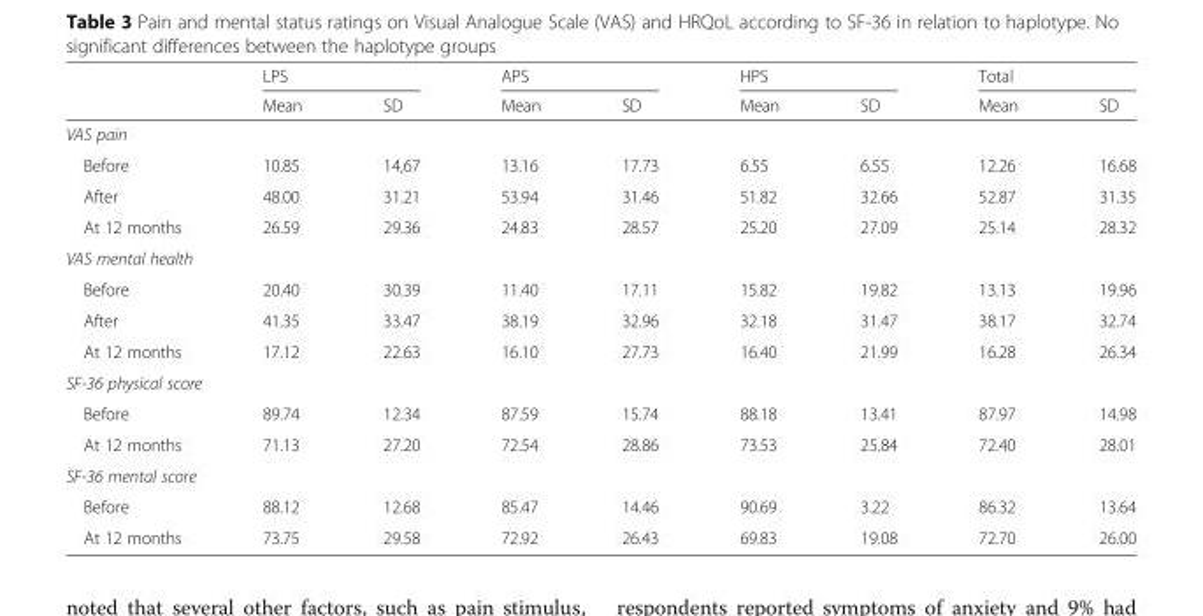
<table><thead><tr><td rowspan="2"></td><td colspan="2">LPS</td><td colspan="2">APS</td><td colspan="2">HPS</td><td colspan="2">Total</td></tr><tr><td>Mean</td><td>SD</td><td>Mean</td><td>SD</td><td>Mean</td><td>SD</td><td>Mean</td><td>SD</td></tr></thead><tbody><tr><td colspan="9">VAS pain</td></tr><tr><td>Before</td><td>10.85</td><td>14,67</td><td>13.16</td><td>17.73</td><td>6.55</td><td>6.55</td><td>12.26</td><td>16.68</td></tr><tr><td>After</td><td>48.00</td><td>31.21</td><td>53.94</td><td>31.46</td><td>51.82</td><td>32.66</td><td>52.87</td><td>31.35</td></tr><tr><td>At 12 months</td><td>26.59</td><td>29.36</td><td>24.83</td><td>28.57</td><td>25.20</td><td>27.09</td><td>25.14</td><td>28.32</td></tr><tr><td colspan="9">VAS mental health</td></tr><tr><td>Before</td><td>20.40</td><td>30.39</td><td>11.40</td><td>17.11</td><td>15.82</td><td>19.82</td><td>13.13</td><td>19.96</td></tr><tr><td>After</td><td>41.35</td><td>33.47</td><td>38.19</td><td>32.96</td><td>32.18</td><td>31.47</td><td>38.17</td><td>32.74</td></tr><tr><td>At 12 months</td><td>17.12</td><td>22.63</td><td>16.10</td><td>27.73</td><td>16.40</td><td>21.99</td><td>16.28</td><td>26.34</td></tr><tr><td colspan="9">SF-36 physical score</td></tr><tr><td>Before</td><td>89.74</td><td>12.34</td><td>87.59</td><td>15.74</td><td>88.18</td><td>13.41</td><td>87.97</td><td>14.98</td></tr><tr><td>At 12 months</td><td>71.13</td><td>27.20</td><td>72.54</td><td>28.86</td><td>73.53</td><td>25.84</td><td>72.40</td><td>28.01</td></tr><tr><td colspan="9">SF-36 mental score</td></tr><tr><td>Before</td><td>88.12</td><td>12.68</td><td>85.47</td><td>14.46</td><td>90.69</td><td>3.22</td><td>86.32</td><td>13.64</td></tr><tr><td>At 12 months</td><td>73.75</td><td>29.58</td><td>72.92</td><td>26.43</td><td>69.83</td><td>19.08</td><td>72.70</td><td>26.00</td></tr></tbody></table>